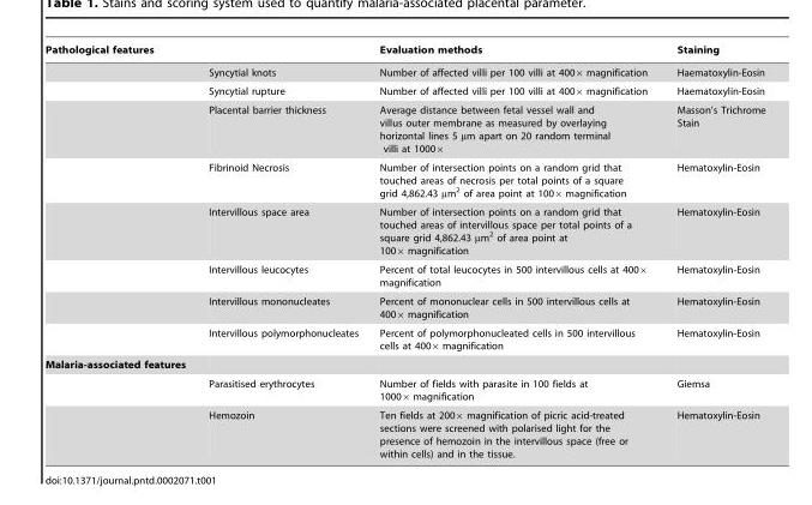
<table><thead><tr><td>Pathological features</td><td></td><td>Evaluation methods</td><td>Staining</td></tr></thead><tbody><tr><td></td><td>Syncytial knots</td><td>Number of affected villi per 100 villi at 400× magnification</td><td>Haematoxylin-Eosin</td></tr><tr><td></td><td>Syncytial rupture</td><td>Number of affected villi per 100 villi at 400× magnification</td><td>Haematoxylin-Eosin</td></tr><tr><td></td><td>Placental barrier thickness</td><td>Average distance between fetal vessel wall and villus outer membrane as measured by overlaying horizontal lines 5 µm apart on 20 random terminal villi at 1000×</td><td>Masson’s Trichrome Stain</td></tr><tr><td></td><td>Fibrinoid Necrosis</td><td>Number of intersection points on a random grid that touched areas of necrosis per total points of a square grid 4,862.43 µm<sup>2</sup> of area point at 100× magnification</td><td>Hematoxylin-Eosin</td></tr><tr><td></td><td>Intervillous space area</td><td>Number of intersection points on a random grid that touched areas of intervillous space per total points of a square grid 4,862.43 µm<sup>2</sup> of area point at 100× magnification</td><td>Hematoxylin-Eosin</td></tr><tr><td></td><td>Intervillous leucocytes</td><td>Percent of total leucocytes in 500 intervillous cells at 400× magnification</td><td>Hematoxylin-Eosin</td></tr><tr><td></td><td>Intervillous mononucleates</td><td>Percent of mononuclear cells in 500 intervillous cells at 400× magnification</td><td>Hematoxylin-Eosin</td></tr><tr><td></td><td>Intervillous polymorphonucleates</td><td>Percent of polymorphonucleated cells in 500 intervillous cells at 400× magnification</td><td>Hematoxylin-Eosin</td></tr><tr><td colspan="4">Malaria-associated features</td></tr><tr><td></td><td>Parasitised erythrocytes</td><td>Number of fields with parasite in 100 fields at 1000× magnification</td><td>Giemsa</td></tr><tr><td></td><td>Hemozoin</td><td>Ten fields at 200× magnification of picric acid-treated sections were screened with polarised light for the presence of hemozoin in the intervillous space (free or within cells) and in the tissue.</td><td>Hematoxylin-Eosin</td></tr></tbody></table>